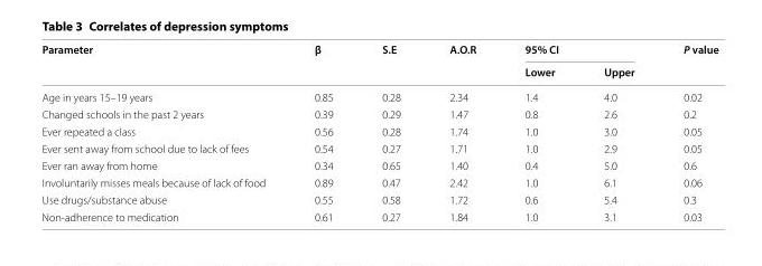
<table><thead><tr><td rowspan="2">Parameter</td><td rowspan="2">β</td><td rowspan="2">S.E</td><td rowspan="2">A.O.R</td><td colspan="2">95% CI</td><td rowspan="2">P value</td></tr><tr><td>Lower</td><td>Upper</td></tr></thead><tbody><tr><td>Age in years 15–19 years</td><td>0.85</td><td>0.28</td><td>2.34</td><td>1.4</td><td>4.0</td><td>0.02</td></tr><tr><td>Changed schools in the past 2 years</td><td>0.39</td><td>0.29</td><td>1.47</td><td>0.8</td><td>2.6</td><td>0.2</td></tr><tr><td>Ever repeated a class</td><td>0.56</td><td>0.28</td><td>1.74</td><td>1.0</td><td>3.0</td><td>0.05</td></tr><tr><td>Ever sent away from school due to lack of fees</td><td>0.54</td><td>0.27</td><td>1.71</td><td>1.0</td><td>2.9</td><td>0.05</td></tr><tr><td>Ever ran away from home</td><td>0.34</td><td>0.65</td><td>1.40</td><td>0.4</td><td>5.0</td><td>0.6</td></tr><tr><td>Involuntarily misses meals because of lack of food</td><td>0.89</td><td>0.47</td><td>2.42</td><td>1.0</td><td>6.1</td><td>0.06</td></tr><tr><td>Use drugs/substance abuse</td><td>0.55</td><td>0.58</td><td>1.72</td><td>0.6</td><td>5.4</td><td>0.3</td></tr><tr><td>Non-adherence to medication</td><td>0.61</td><td>0.27</td><td>1.84</td><td>1.0</td><td>3.1</td><td>0.03</td></tr></tbody></table>